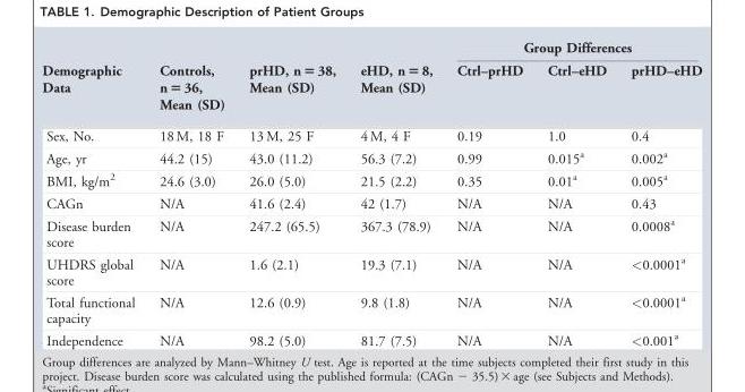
<table><thead><tr><td rowspan="2">Demographic Data</td><td rowspan="2">Controls, n = 36, Mean (SD)</td><td rowspan="2">prHD, n = 38, Mean (SD)</td><td rowspan="2">eHD, n = 8, Mean (SD)</td><td colspan="3">Group Differences</td></tr><tr><td>Ctrl–prHD</td><td>Ctrl–eHD</td><td>prHD–eHD</td></tr></thead><tbody><tr><td>Sex, No.</td><td>18 M, 18 F</td><td>13 M, 25 F</td><td>4 M, 4 F</td><td>0.19</td><td>1.0</td><td>0.4</td></tr><tr><td>Age, yr</td><td>44.2 (15)</td><td>43.0 (11.2)</td><td>56.3 (7.2)</td><td>0.99</td><td>0.015<sup>a</sup></td><td>0.002<sup>a</sup></td></tr><tr><td>BMI, kg/m<sup>2</sup></td><td>24.6 (3.0)</td><td>26.0 (5.0)</td><td>21.5 (2.2)</td><td>0.35</td><td>0.01<sup>a</sup></td><td>0.005<sup>a</sup></td></tr><tr><td>CAGn</td><td>N/A</td><td>41.6 (2.4)</td><td>42 (1.7)</td><td>N/A</td><td>N/A</td><td>0.43</td></tr><tr><td>Disease burden score</td><td>N/A</td><td>247.2 (65.5)</td><td>367.3 (78.9)</td><td>N/A</td><td>N/A</td><td>0.0008<sup>a</sup></td></tr><tr><td>UHDRS global score</td><td>N/A</td><td>1.6 (2.1)</td><td>19.3 (7.1)</td><td>N/A</td><td>N/A</td><td>&lt;0.0001<sup>a</sup></td></tr><tr><td>Total functional capacity</td><td>N/A</td><td>12.6 (0.9)</td><td>9.8 (1.8)</td><td>N/A</td><td>N/A</td><td>&lt;0.0001<sup>a</sup></td></tr><tr><td>Independence</td><td>N/A</td><td>98.2 (5.0)</td><td>81.7 (7.5)</td><td>N/A</td><td>N/A</td><td>&lt;0.001<sup>a</sup></td></tr></tbody></table>